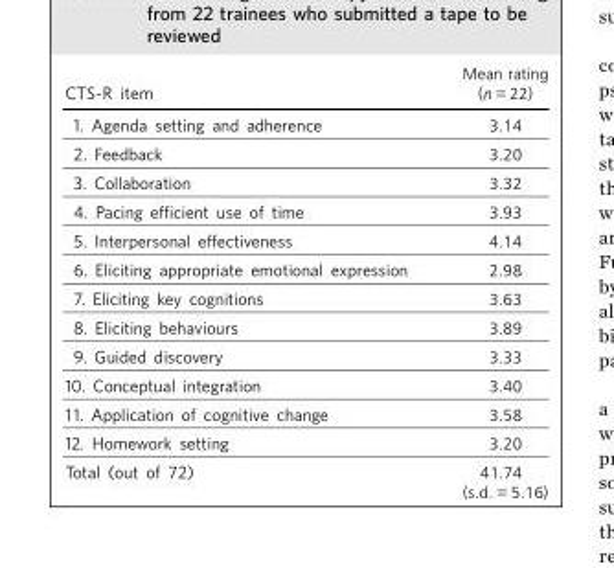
<table><thead><tr><td>CTS-R item</td><td>Mean rating (n = 22)</td></tr></thead><tbody><tr><td>1. Agenda setting and adherence</td><td>3.14</td></tr><tr><td>2. Feedback</td><td>3.20</td></tr><tr><td>3. Collaboration</td><td>3.32</td></tr><tr><td>4. Pacing efficient use of time</td><td>3.93</td></tr><tr><td>5. Interpersonal effectiveness</td><td>4.14</td></tr><tr><td>6. Eliciting appropriate emotional expression</td><td>2.98</td></tr><tr><td>7. Eliciting key cognitions</td><td>3.63</td></tr><tr><td>8. Eliciting behaviours</td><td>3.89</td></tr><tr><td>9. Guided discovery</td><td>3.33</td></tr><tr><td>10. Conceptual integration</td><td>3.40</td></tr><tr><td>11. Application of cognitive change</td><td>3.58</td></tr><tr><td>12. Homework setting</td><td>3.20</td></tr><tr><td>Total (out of 72)</td><td>41.74 (s.d. = 5.16)</td></tr></tbody></table>